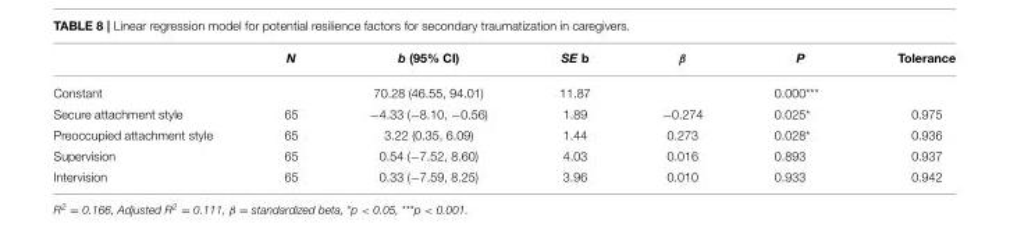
<table><thead><tr><td></td><td>N</td><td>b (95% CI)</td><td>SE b</td><td>β</td><td>P</td><td>Tolerance</td></tr></thead><tbody><tr><td>Constant</td><td></td><td>70.28 (46.55, 94.01)</td><td>11.87</td><td></td><td>0.000***</td><td></td></tr><tr><td>Secure attachment style</td><td>65</td><td>−4.33 (−8.10, −0.56)</td><td>1.89</td><td>−0.274</td><td>0.025*</td><td>0.975</td></tr><tr><td>Preoccupied attachment style</td><td>65</td><td>3.22 (0.35, 6.09)</td><td>1.44</td><td>0.273</td><td>0.028*</td><td>0.936</td></tr><tr><td>Supervision</td><td>65</td><td>0.54 (−7.52, 8.60)</td><td>4.03</td><td>0.016</td><td>0.893</td><td>0.937</td></tr><tr><td>Intervision</td><td>65</td><td>0.33 (−7.59, 8.25)</td><td>3.96</td><td>0.010</td><td>0.933</td><td>0.942</td></tr></tbody></table>